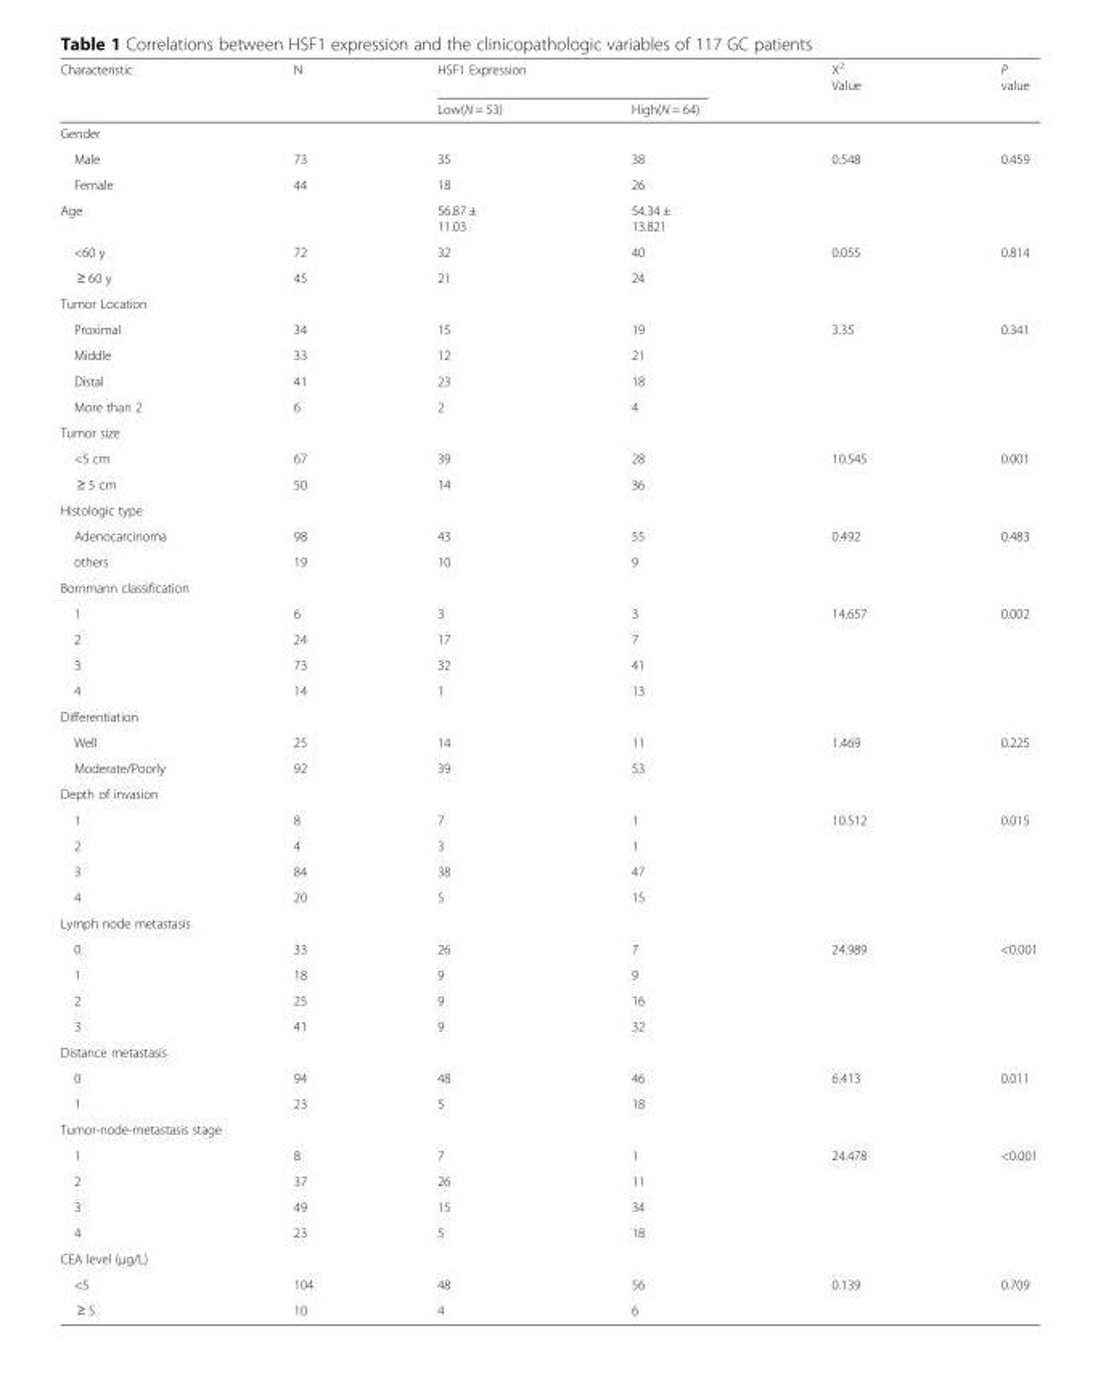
<table><thead><tr><td rowspan="2">Characteristic</td><td rowspan="2">N</td><td colspan="2">HSF1 Expression</td><td rowspan="2">Χ<sup>2</sup> Value</td><td rowspan="2">P value</td></tr><tr><td>Low(N = 53)</td><td>High(N = 64)</td></tr></thead><tbody><tr><td colspan="6">Gender</td></tr><tr><td>Male</td><td>73</td><td>35</td><td>38</td><td rowspan="2">0.548</td><td rowspan="2">0.459</td></tr><tr><td>Female</td><td>44</td><td>18</td><td>26</td></tr><tr><td>Age</td><td></td><td>56.87 ± 11.03</td><td>54.34 ± 13.821</td><td></td><td></td></tr><tr><td>&lt;60 y</td><td>72</td><td>32</td><td>40</td><td rowspan="2">0.055</td><td rowspan="2">0.814</td></tr><tr><td>≥ 60 y</td><td>45</td><td>21</td><td>24</td></tr><tr><td colspan="6">Tumor Location</td></tr><tr><td>Proximal</td><td>34</td><td>15</td><td>19</td><td rowspan="4">3.35</td><td rowspan="4">0.341</td></tr><tr><td>Middle</td><td>33</td><td>12</td><td>21</td></tr><tr><td>Distal</td><td>41</td><td>23</td><td>18</td></tr><tr><td>More than 2</td><td>6</td><td>2</td><td>4</td></tr><tr><td colspan="6">Tumor size</td></tr><tr><td>&lt;5 cm</td><td>67</td><td>39</td><td>28</td><td rowspan="2">10.545</td><td rowspan="2">0.001</td></tr><tr><td>≥ 5 cm</td><td>50</td><td>14</td><td>36</td></tr><tr><td colspan="6">Histologic type</td></tr><tr><td>Adenocarcinoma</td><td>98</td><td>43</td><td>55</td><td rowspan="2">0.492</td><td rowspan="2">0.483</td></tr><tr><td>others</td><td>19</td><td>10</td><td>9</td></tr><tr><td colspan="6">Bornmann classification</td></tr><tr><td>1</td><td>6</td><td>3</td><td>3</td><td rowspan="4">14.657</td><td rowspan="4">0.002</td></tr><tr><td>2</td><td>24</td><td>17</td><td>7</td></tr><tr><td>3</td><td>73</td><td>32</td><td>41</td></tr><tr><td>4</td><td>14</td><td>1</td><td>13</td></tr><tr><td colspan="6">Differentiation</td></tr><tr><td>Well</td><td>25</td><td>14</td><td>11</td><td rowspan="2">1.469</td><td rowspan="2">0.225</td></tr><tr><td>Moderate/Poorly</td><td>92</td><td>39</td><td>53</td></tr><tr><td colspan="6">Depth of invasion</td></tr><tr><td>1</td><td>8</td><td>7</td><td>1</td><td rowspan="4">10.512</td><td rowspan="4">0.015</td></tr><tr><td>2</td><td>4</td><td>3</td><td>1</td></tr><tr><td>3</td><td>84</td><td>38</td><td>47</td></tr><tr><td>4</td><td>20</td><td>5</td><td>15</td></tr><tr><td colspan="6">Lymph node metastasis</td></tr><tr><td>0</td><td>33</td><td>26</td><td>7</td><td rowspan="4">24.989</td><td rowspan="4">&lt;0.001</td></tr><tr><td>1</td><td>18</td><td>9</td><td>9</td></tr><tr><td>2</td><td>25</td><td>9</td><td>16</td></tr><tr><td>3</td><td>41</td><td>9</td><td>32</td></tr><tr><td colspan="6">Distance metastasis</td></tr><tr><td>0</td><td>94</td><td>48</td><td>46</td><td rowspan="2">6.413</td><td rowspan="2">0.011</td></tr><tr><td>1</td><td>23</td><td>5</td><td>18</td></tr><tr><td colspan="6">Tumor-node-metastasis stage</td></tr><tr><td>1</td><td>8</td><td>7</td><td>1</td><td rowspan="4">24.478</td><td rowspan="4">&lt;0.001</td></tr><tr><td>2</td><td>37</td><td>26</td><td>11</td></tr><tr><td>3</td><td>49</td><td>15</td><td>34</td></tr><tr><td>4</td><td>23</td><td>5</td><td>18</td></tr><tr><td colspan="6">CEA level (μg/L)</td></tr><tr><td>&lt;5</td><td>104</td><td>48</td><td>56</td><td rowspan="2">0.139</td><td rowspan="2">0.709</td></tr><tr><td>≥ 5</td><td>10</td><td>4</td><td>6</td></tr></tbody></table>